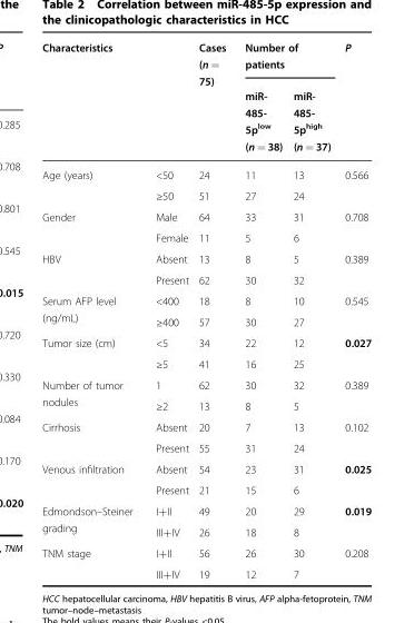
<table><thead><tr><td rowspan="2">Characteristics</td><td rowspan="2"></td><td rowspan="2">Cases (n = 75)</td><td colspan="2">Number of patients</td><td rowspan="2">P</td></tr><tr><td>miR- 485- 5p<sup>low</sup> (n = 38)</td><td>miR- 485- 5p<sup>high</sup> (n = 37)</td></tr></thead><tbody><tr><td rowspan="2">Age (years)</td><td>&lt;50</td><td>24</td><td>11</td><td>13</td><td rowspan="2">0.566</td></tr><tr><td>≥50</td><td>51</td><td>27</td><td>24</td></tr><tr><td rowspan="2">Gender</td><td>Male</td><td>64</td><td>33</td><td>31</td><td rowspan="2">0.708</td></tr><tr><td>Female</td><td>11</td><td>5</td><td>6</td></tr><tr><td rowspan="2">HBV</td><td>Absent</td><td>13</td><td>8</td><td>5</td><td rowspan="2">0.389</td></tr><tr><td>Present</td><td>62</td><td>30</td><td>32</td></tr><tr><td rowspan="2">Serum AFP level (ng/mL)</td><td>&lt;400</td><td>18</td><td>8</td><td>10</td><td rowspan="2">0.545</td></tr><tr><td>≥400</td><td>57</td><td>30</td><td>27</td></tr><tr><td rowspan="2">Tumor size (cm)</td><td>&lt;5</td><td>34</td><td>22</td><td>12</td><td rowspan="2">0.027</td></tr><tr><td>≥5</td><td>41</td><td>16</td><td>25</td></tr><tr><td rowspan="2">Number of tumor nodules</td><td>1</td><td>62</td><td>30</td><td>32</td><td rowspan="2">0.389</td></tr><tr><td>≥2</td><td>13</td><td>8</td><td>5</td></tr><tr><td rowspan="2">Cirrhosis</td><td>Absent</td><td>20</td><td>7</td><td>13</td><td rowspan="2">0.102</td></tr><tr><td>Present</td><td>55</td><td>31</td><td>24</td></tr><tr><td rowspan="2">Venous infiltration</td><td>Absent</td><td>54</td><td>23</td><td>31</td><td rowspan="2">0.025</td></tr><tr><td>Present</td><td>21</td><td>15</td><td>6</td></tr><tr><td rowspan="2">Edmondson–Steiner grading</td><td>I+II</td><td>49</td><td>20</td><td>29</td><td rowspan="2">0.019</td></tr><tr><td>III+IV</td><td>26</td><td>18</td><td>8</td></tr><tr><td rowspan="2">TNM stage</td><td>I+II</td><td>56</td><td>26</td><td>30</td><td rowspan="2">0.208</td></tr><tr><td>III+IV</td><td>19</td><td>12</td><td>7</td></tr></tbody></table>